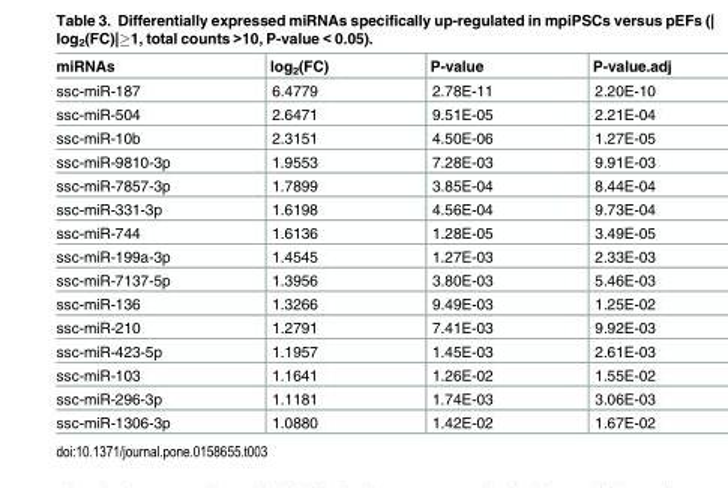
<table><thead><tr><td>miRNAs</td><td>log<sub>2</sub>(FC)</td><td>P-value</td><td>P-value.adj</td></tr></thead><tbody><tr><td>ssc-miR-187</td><td>6.4779</td><td>2.78E-11</td><td>2.20E-10</td></tr><tr><td>ssc-miR-504</td><td>2.6471</td><td>9.51E-05</td><td>2.21E-04</td></tr><tr><td>ssc-miR-10b</td><td>2.3151</td><td>4.50E-06</td><td>1.27E-05</td></tr><tr><td>ssc-miR-9810-3p</td><td>1.9553</td><td>7.28E-03</td><td>9.91E-03</td></tr><tr><td>ssc-miR-7857-3p</td><td>1.7899</td><td>3.85E-04</td><td>8.44E-04</td></tr><tr><td>ssc-miR-331-3p</td><td>1.6198</td><td>4.56E-04</td><td>9.73E-04</td></tr><tr><td>ssc-miR-744</td><td>1.6136</td><td>1.28E-05</td><td>3.49E-05</td></tr><tr><td>ssc-miR-199a-3p</td><td>1.4545</td><td>1.27E-03</td><td>2.33E-03</td></tr><tr><td>ssc-miR-7137-5p</td><td>1.3956</td><td>3.80E-03</td><td>5.46E-03</td></tr><tr><td>ssc-miR-136</td><td>1.3266</td><td>9.49E-03</td><td>1.25E-02</td></tr><tr><td>ssc-miR-210</td><td>1.2791</td><td>7.41E-03</td><td>9.92E-03</td></tr><tr><td>ssc-miR-423-5p</td><td>1.1957</td><td>1.45E-03</td><td>2.61E-03</td></tr><tr><td>ssc-miR-103</td><td>1.1641</td><td>1.26E-02</td><td>1.55E-02</td></tr><tr><td>ssc-miR-296-3p</td><td>1.1181</td><td>1.74E-03</td><td>3.06E-03</td></tr><tr><td>ssc-miR-1306-3p</td><td>1.0880</td><td>1.42E-02</td><td>1.67E-02</td></tr></tbody></table>